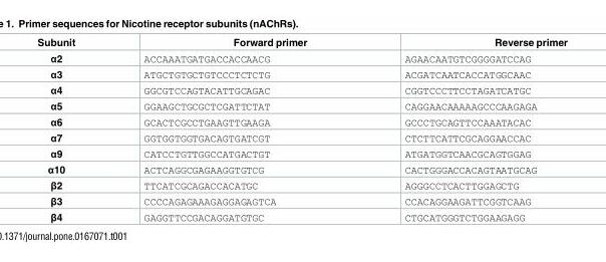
<table><thead><tr><td>Subunit</td><td>Forward primer</td><td>Reverse primer</td></tr></thead><tbody><tr><td>α2</td><td>ACCAAATGATGACCACCAACG</td><td>AGAACAATGTCGGGGATCCAG</td></tr><tr><td>α3</td><td>ATGCTGTGCTGTCCCTCTCTG</td><td>ACGATCAATCACCATGGCAAC</td></tr><tr><td>α4</td><td>GGCGTCCAGTACATTGCAGAC</td><td>CGGTCCCTTCCTAGATCATGC</td></tr><tr><td>α5</td><td>GGAAGCTGCGCTCGATTCTAT</td><td>CAGGAACAAAAAGCCCAAGAGA</td></tr><tr><td>α6</td><td>GCACTCGCCTGAAGTTGAAGA</td><td>GCCCTGCAGTTCCAAATACAC</td></tr><tr><td>α7</td><td>GGTGGTGGTGACAGTGATCGT</td><td>CTCTTCATTCGCAGGAACCAC</td></tr><tr><td>α9</td><td>CATCCTGTTGGCCATGACTGT</td><td>ATGATGGTCAACGCAGTGGAG</td></tr><tr><td>α10</td><td>ACTCAGGCGAGAAGGTGTCG</td><td>CACTGGGACCACAGTAATGCAG</td></tr><tr><td>β2</td><td>TTCATCGCAGACCACATGC</td><td>AGGGCCTCACTTGGAGCTG</td></tr><tr><td>β3</td><td>CCCCAGAGAAAGAGGAGAGTCA</td><td>CCACAGGAAGATTCGGTCAAG</td></tr><tr><td>β4</td><td>GAGGTTCCGACAGGATGTGC</td><td>CTGCATGGGTCTGGAAGAGG</td></tr></tbody></table>